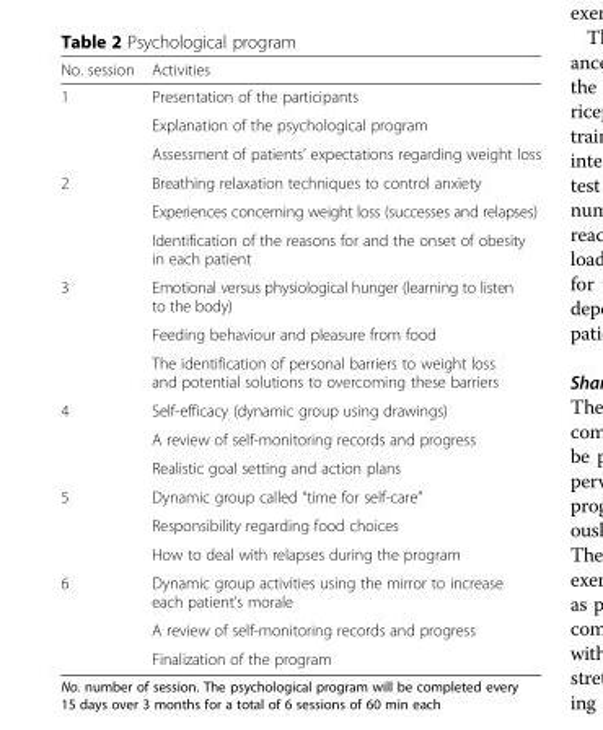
<table><thead><tr><td>No. session</td><td>Activities</td></tr></thead><tbody><tr><td rowspan="3">1</td><td>Presentation of the participants</td></tr><tr><td>Explanation of the psychological program</td></tr><tr><td>Assessment of patients’ expectations regarding weight loss</td></tr><tr><td rowspan="3">2</td><td>Breathing relaxation techniques to control anxiety</td></tr><tr><td>Experiences concerning weight loss (successes and relapses)</td></tr><tr><td>Identification of the reasons for and the onset of obesity in each patient</td></tr><tr><td rowspan="3">3</td><td>Emotional versus physiological hunger (learning to listen to the body)</td></tr><tr><td>Feeding behaviour and pleasure from food</td></tr><tr><td>The identification of personal barriers to weight loss and potential solutions to overcoming these barriers</td></tr><tr><td rowspan="3">4</td><td>Self-efficacy (dynamic group using drawings)</td></tr><tr><td>A review of self-monitoring records and progress</td></tr><tr><td>Realistic goal setting and action plans</td></tr><tr><td rowspan="3">5</td><td>Dynamic group called “time for self-care”</td></tr><tr><td>Responsibility regarding food choices</td></tr><tr><td>How to deal with relapses during the program</td></tr><tr><td rowspan="3">6</td><td>Dynamic group activities using the mirror to increase each patient’s morale</td></tr><tr><td>A review of self-monitoring records and progress</td></tr><tr><td>Finalization of the program</td></tr></tbody></table>